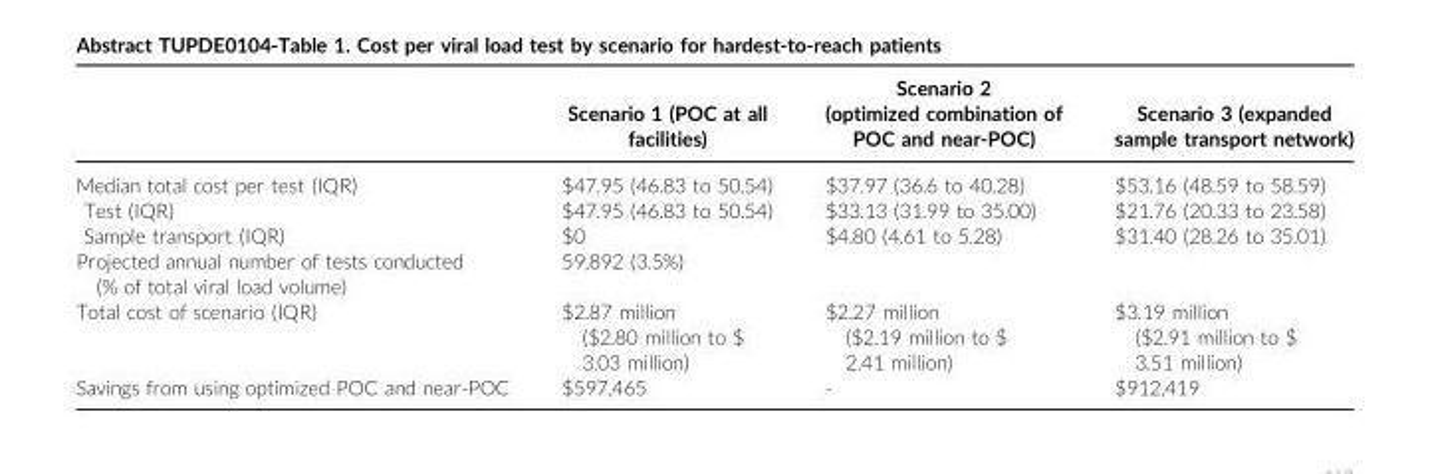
<table><thead><tr><td></td><td>Scenario 1 (POC at all facilities)</td><td>Scenario 2 (optimized combination of POC and near-POC)</td><td>Scenario 3 (expanded sample transport network)</td></tr></thead><tbody><tr><td>Median total cost per test (IQR)</td><td>$47.95 (46.83 to 50.54)</td><td>$37.97 (36.6 to 40.28)</td><td>$53.16 (48.59 to 58.59)</td></tr><tr><td>Test (IQR)</td><td>$47.95 (46.83 to 50.54)</td><td>$33.13 (31.99 to 35.00)</td><td>$21.76 (20.33 to 23.58)</td></tr><tr><td>Sample transport (IQR)</td><td>$0</td><td>$4.80 (4.61 to 5.28)</td><td>$31.40 (28.26 to 35.01)</td></tr><tr><td>Projected annual number of tests conducted (% of total viral load volume)</td><td colspan="3">59,892 (3.5%)</td></tr><tr><td>Total cost of scenario (IQR)</td><td>$2.87 million ($2.80 million to $ 3.03 million)</td><td>$2.27 million ($2.19 million to $ 2.41 million)</td><td>$3.19 million ($2.91 million to $ 3.51 million)</td></tr><tr><td>Savings from using optimized POC and near-POC</td><td>$597,465</td><td>-</td><td>$912,419</td></tr></tbody></table>